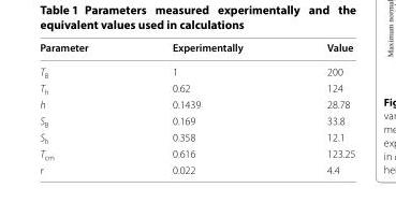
<table><thead><tr><td>Parameter</td><td>Experimentally</td><td>Value</td></tr></thead><tbody><tr><td>T<sub>B</sub></td><td>1</td><td>200</td></tr><tr><td>T<sub>h</sub></td><td>0.62</td><td>124</td></tr><tr><td>h</td><td>0.1439</td><td>28.78</td></tr><tr><td>S<sub>B</sub></td><td>0.169</td><td>33.8</td></tr><tr><td>S<sub>h</sub></td><td>0.358</td><td>12.1</td></tr><tr><td>T<sub>cm</sub></td><td>0.616</td><td>123.25</td></tr><tr><td>r</td><td>0.022</td><td>4.4</td></tr></tbody></table>